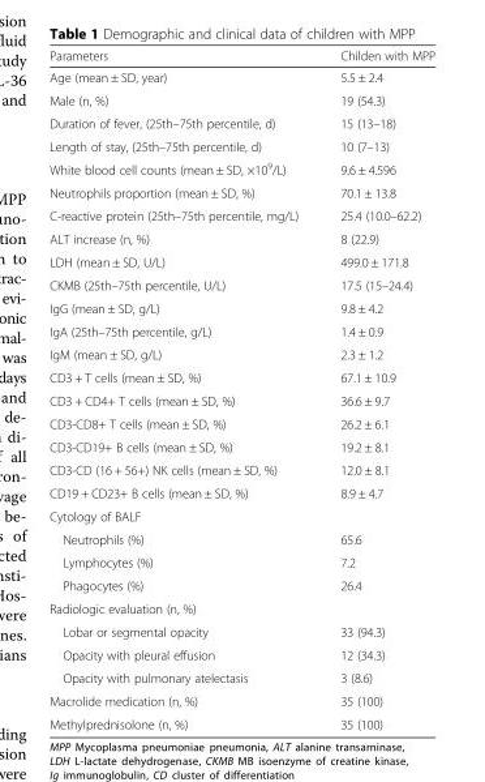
<table><thead><tr><td>Parameters</td><td>Childen with MPP</td></tr></thead><tbody><tr><td>Age (mean ± SD, year)</td><td>5.5 ± 2.4</td></tr><tr><td>Male (n, %)</td><td>19 (54.3)</td></tr><tr><td>Duration of fever, (25th–75th percentile, d)</td><td>15 (13–18)</td></tr><tr><td>Length of stay, (25th–75th percentile, d)</td><td>10 (7–13)</td></tr><tr><td>White blood cell counts (mean ± SD, ×10<sup>9</sup>/L)</td><td>9.6 ± 4.596</td></tr><tr><td>Neutrophils proportion (mean ± SD, %)</td><td>70.1 ± 13.8</td></tr><tr><td>C-reactive protein (25th–75th percentile, mg/L)</td><td>25.4 (10.0–62.2)</td></tr><tr><td>ALT increase (n, %)</td><td>8 (22.9)</td></tr><tr><td>LDH (mean ± SD, U/L)</td><td>499.0 ± 171.8</td></tr><tr><td>CKMB (25th–75th percentile, U/L)</td><td>17.5 (15–24.4)</td></tr><tr><td>IgG (mean ± SD, g/L)</td><td>9.8 ± 4.2</td></tr><tr><td>IgA (25th–75th percentile, g/L)</td><td>1.4 ± 0.9</td></tr><tr><td>IgM (mean ± SD, g/L)</td><td>2.3 ± 1.2</td></tr><tr><td>CD3 + T cells (mean ± SD, %)</td><td>67.1 ± 10.9</td></tr><tr><td>CD3 + CD4+ T cells (mean ± SD, %)</td><td>36.6 ± 9.7</td></tr><tr><td>CD3-CD8+ T cells (mean ± SD, %)</td><td>26.2 ± 6.1</td></tr><tr><td>CD3-CD19+ B cells (mean ± SD, %)</td><td>19.2 ± 8.1</td></tr><tr><td>CD3-CD (16 + 56+) NK cells (mean ± SD, %)</td><td>12.0 ± 8.1</td></tr><tr><td>CD19 + CD23+ B cells (mean ± SD, %)</td><td>8.9 ± 4.7</td></tr><tr><td colspan="2">Cytology of BALF</td></tr><tr><td>Neutrophils (%)</td><td>65.6</td></tr><tr><td>Lymphocytes (%)</td><td>7.2</td></tr><tr><td>Phagocytes (%)</td><td>26.4</td></tr><tr><td colspan="2">Radiologic evaluation (n, %)</td></tr><tr><td>Lobar or segmental opacity</td><td>33 (94.3)</td></tr><tr><td>Opacity with pleural effusion</td><td>12 (34.3)</td></tr><tr><td>Opacity with pulmonary atelectasis</td><td>3 (8.6)</td></tr><tr><td>Macrolide medication (n, %)</td><td>35 (100)</td></tr><tr><td>Methylprednisolone (n, %)</td><td>35 (100)</td></tr></tbody></table>